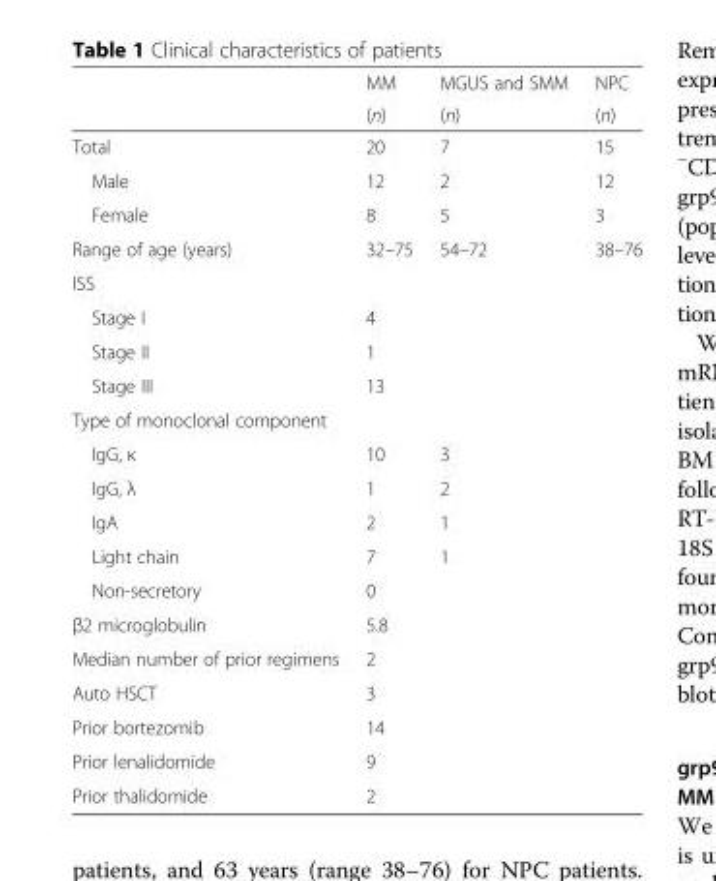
<table><thead><tr><td rowspan="2"></td><td rowspan="2">MM (n)</td><td rowspan="2">MGUS and SMM (n)</td><td rowspan="2">NPC (n)</td></tr><tr></tr></thead><tbody><tr><td>Total</td><td>20</td><td>7</td><td>15</td></tr><tr><td>Male</td><td>12</td><td>2</td><td>12</td></tr><tr><td>Female</td><td>8</td><td>5</td><td>3</td></tr><tr><td>Range of age (years)</td><td>32–75</td><td>54–72</td><td>38–76</td></tr><tr><td colspan="4">ISS</td></tr><tr><td>Stage I</td><td>4</td><td></td><td></td></tr><tr><td>Stage II</td><td>1</td><td></td><td></td></tr><tr><td>Stage III</td><td>13</td><td></td><td></td></tr><tr><td colspan="4">Type of monoclonal component</td></tr><tr><td>IgG, κ</td><td>10</td><td>3</td><td></td></tr><tr><td>IgG, λ</td><td>1</td><td>2</td><td></td></tr><tr><td>IgA</td><td>2</td><td>1</td><td></td></tr><tr><td>Light chain</td><td>7</td><td>1</td><td></td></tr><tr><td>Non-secretory</td><td>0</td><td></td><td></td></tr><tr><td>β2 microglobulin</td><td>5.8</td><td></td><td></td></tr><tr><td>Median number of prior regimens</td><td>2</td><td></td><td></td></tr><tr><td>Auto HSCT</td><td>3</td><td></td><td></td></tr><tr><td>Prior bortezomib</td><td>14</td><td></td><td></td></tr><tr><td>Prior lenalidomide</td><td>9</td><td></td><td></td></tr><tr><td>Prior thalidomide</td><td>2</td><td></td><td></td></tr></tbody></table>